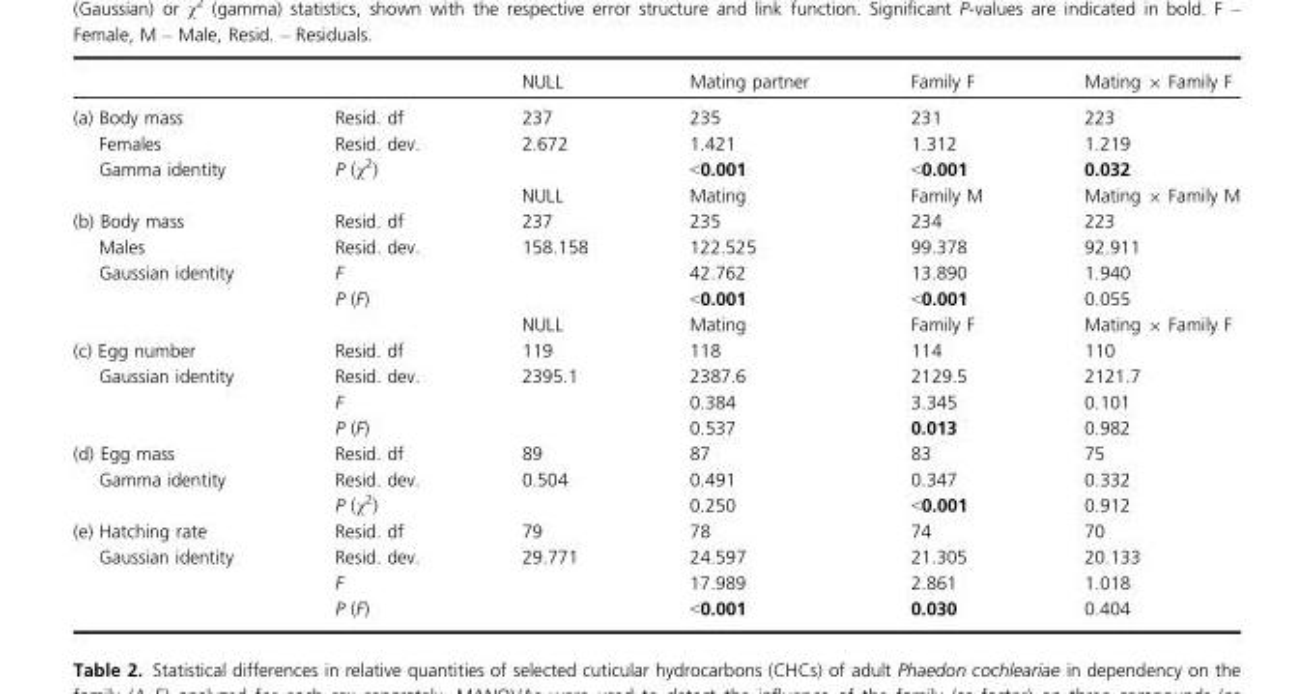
<table><thead><tr><td></td><td></td><td>NULL</td><td>Mating partner</td><td>Family F</td><td>Mating × Family F</td></tr></thead><tbody><tr><td>(a) Body mass</td><td>Resid. df</td><td>237</td><td>235</td><td>231</td><td>223</td></tr><tr><td>Females</td><td>Resid. dev.</td><td>2.672</td><td>1.421</td><td>1.312</td><td>1.219</td></tr><tr><td rowspan="2">Gamma identity</td><td>P (χ<sup>2</sup>)</td><td></td><td>&lt;0.001</td><td>&lt;0.001</td><td>0.032</td></tr><tr><td></td><td>NULL</td><td>Mating</td><td>Family M</td><td>Mating × Family M</td></tr><tr><td>(b) Body mass</td><td>Resid. df</td><td>237</td><td>235</td><td>234</td><td>223</td></tr><tr><td>Males</td><td>Resid. dev.</td><td>158.158</td><td>122.525</td><td>99.378</td><td>92.911</td></tr><tr><td rowspan="3">Gaussian identity</td><td>F</td><td></td><td>42.762</td><td>13.890</td><td>1.940</td></tr><tr><td>P (F)</td><td></td><td>&lt;0.001</td><td>&lt;0.001</td><td>0.055</td></tr><tr><td></td><td>NULL</td><td>Mating</td><td>Family F</td><td>Mating × Family F</td></tr><tr><td>(c) Egg number</td><td>Resid. df</td><td>119</td><td>118</td><td>114</td><td>110</td></tr><tr><td rowspan="3">Gaussian identity</td><td>Resid. dev.</td><td>2395.1</td><td>2387.6</td><td>2129.5</td><td>2121.7</td></tr><tr><td>F</td><td></td><td>0.384</td><td>3.345</td><td>0.101</td></tr><tr><td>P (F)</td><td></td><td>0.537</td><td>0.013</td><td>0.982</td></tr><tr><td>(d) Egg mass</td><td>Resid. df</td><td>89</td><td>87</td><td>83</td><td>75</td></tr><tr><td rowspan="2">Gamma identity</td><td>Resid. dev.</td><td>0.504</td><td>0.491</td><td>0.347</td><td>0.332</td></tr><tr><td>P (χ<sup>2</sup>)</td><td></td><td>0.250</td><td>&lt;0.001</td><td>0.912</td></tr><tr><td>(e) Hatching rate</td><td>Resid. df</td><td>79</td><td>78</td><td>74</td><td>70</td></tr><tr><td rowspan="3">Gaussian identity</td><td>Resid. dev.</td><td>29.771</td><td>24.597</td><td>21.305</td><td>20.133</td></tr><tr><td>F</td><td></td><td>17.989</td><td>2.861</td><td>1.018</td></tr><tr><td>P (F)</td><td></td><td>&lt;0.001</td><td>0.030</td><td>0.404</td></tr></tbody></table>